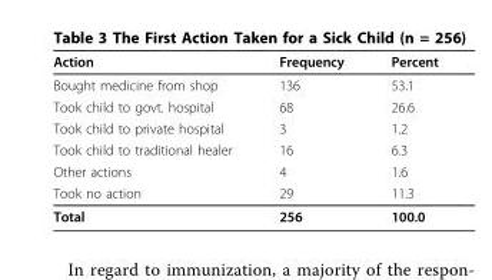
<table><thead><tr><td>Action</td><td>Frequency</td><td>Percent</td></tr></thead><tbody><tr><td>Bought medicine from shop</td><td>136</td><td>53.1</td></tr><tr><td>Took child to govt. hospital</td><td>68</td><td>26.6</td></tr><tr><td>Took child to private hospital</td><td>3</td><td>1.2</td></tr><tr><td>Took child to traditional healer</td><td>16</td><td>6.3</td></tr><tr><td>Other actions</td><td>4</td><td>1.6</td></tr><tr><td>Took no action</td><td>29</td><td>11.3</td></tr><tr><td>Total</td><td>256</td><td>100.0</td></tr></tbody></table>